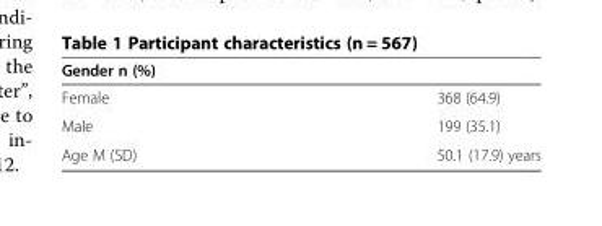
<table><thead><tr><td>Gender n (%)</td><td></td></tr></thead><tbody><tr><td>Female</td><td>368 (64.9)</td></tr><tr><td>Male</td><td>199 (35.1)</td></tr><tr><td>Age M (SD)</td><td>50.1 (17.9) years</td></tr></tbody></table>